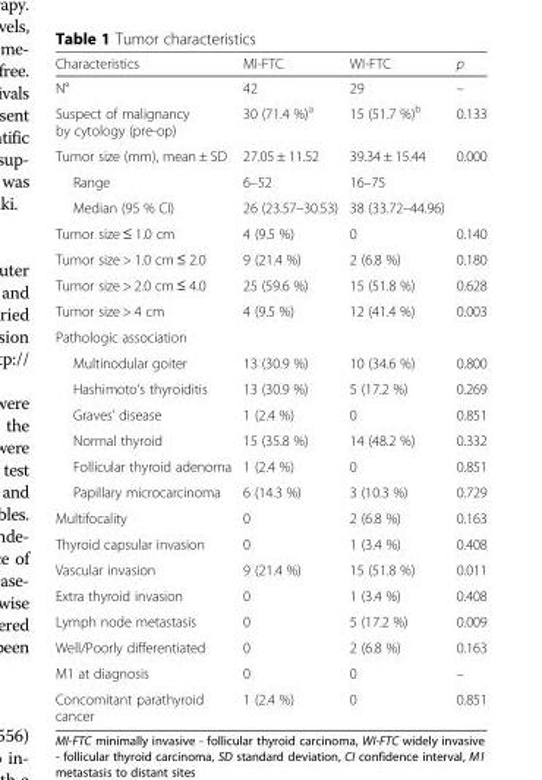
<table><thead><tr><td>Characteristics</td><td>MI-FTC</td><td>WI-FTC</td><td>p</td></tr></thead><tbody><tr><td>N°</td><td>42</td><td>29</td><td>–</td></tr><tr><td>Suspect of malignancy by cytology (pre-op)</td><td>30 (71.4 %)<sup>a</sup></td><td>15 (51.7 %)<sup>b</sup></td><td>0.133</td></tr><tr><td>Tumor size (mm), mean ± SD</td><td>27.05 ± 11.52</td><td>39.34 ± 15.44</td><td>0.000</td></tr><tr><td>Range</td><td>6–52</td><td>16–75</td><td></td></tr><tr><td>Median (95 % CI)</td><td>26 (23.57–30.53)</td><td>38 (33.72–44.96)</td><td></td></tr><tr><td>Tumor size ≤ 1.0 cm</td><td>4 (9.5 %)</td><td>0</td><td>0.140</td></tr><tr><td>Tumor size &gt; 1.0 cm ≤ 2.0</td><td>9 (21.4 %)</td><td>2 (6.8 %)</td><td>0.180</td></tr><tr><td>Tumor size &gt; 2.0 cm ≤ 4.0</td><td>25 (59.6 %)</td><td>15 (51.8 %)</td><td>0.628</td></tr><tr><td>Tumor size &gt; 4 cm</td><td>4 (9.5 %)</td><td>12 (41.4 %)</td><td>0.003</td></tr><tr><td colspan="4">Pathologic association</td></tr><tr><td>Multinodular goiter</td><td>13 (30.9 %)</td><td>10 (34.6 %)</td><td>0.800</td></tr><tr><td>Hashimoto’s thyroiditis</td><td>13 (30.9 %)</td><td>5 (17.2 %)</td><td>0.269</td></tr><tr><td>Graves’ disease</td><td>1 (2.4 %)</td><td>0</td><td>0.851</td></tr><tr><td>Normal thyroid</td><td>15 (35.8 %)</td><td>14 (48.2 %)</td><td>0.332</td></tr><tr><td>Follicular thyroid adenoma</td><td>1 (2.4 %)</td><td>0</td><td>0.851</td></tr><tr><td>Papillary microcarcinoma</td><td>6 (14.3 %)</td><td>3 (10.3 %)</td><td>0.729</td></tr><tr><td>Multifocality</td><td>0</td><td>2 (6.8 %)</td><td>0.163</td></tr><tr><td>Thyroid capsular invasion</td><td>0</td><td>1 (3.4 %)</td><td>0.408</td></tr><tr><td>Vascular invasion</td><td>9 (21.4 %)</td><td>15 (51.8 %)</td><td>0.011</td></tr><tr><td>Extra thyroid invasion</td><td>0</td><td>1 (3.4 %)</td><td>0.408</td></tr><tr><td>Lymph node metastasis</td><td>0</td><td>5 (17.2 %)</td><td>0.009</td></tr><tr><td>Well/Poorly differentiated</td><td>0</td><td>2 (6.8 %)</td><td>0.163</td></tr><tr><td>M1 at diagnosis</td><td>0</td><td>0</td><td>–</td></tr><tr><td>Concomitant parathyroid cancer</td><td>1 (2.4 %)</td><td>0</td><td>0.851</td></tr></tbody></table>